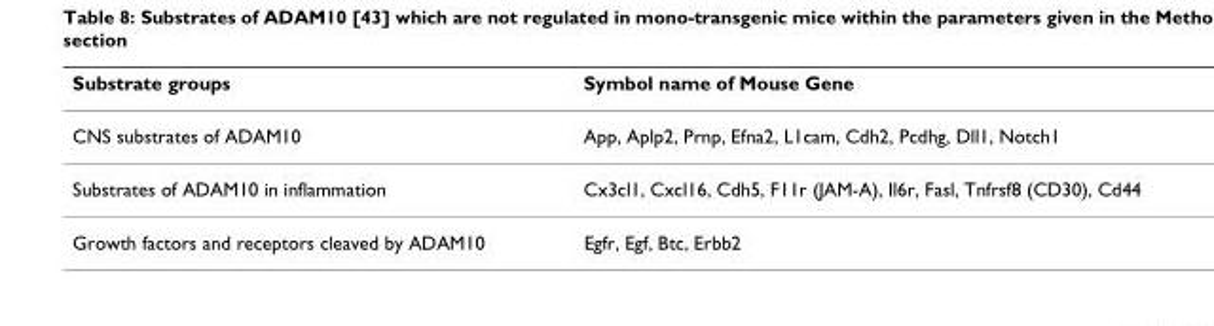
<table><thead><tr><td>Substrate groups</td><td>Symbol name of Mouse Gene</td></tr></thead><tbody><tr><td>CNS substrates of ADAM10</td><td>App, Aplp2, Prnp, Efna2, L1cam, Cdh2, Pcdhg, Dll1, Notch1</td></tr><tr><td>Substrates of ADAM10 in inflammation</td><td>Cx3cl1, Cxcl16, Cdh5, F11r (JAM-A), Il6r, Fasl, Tnfrsf8 (CD30), Cd44</td></tr><tr><td>Growth factors and receptors cleaved by ADAM10</td><td>Egfr, Egf, Btc, Erbb2</td></tr></tbody></table>